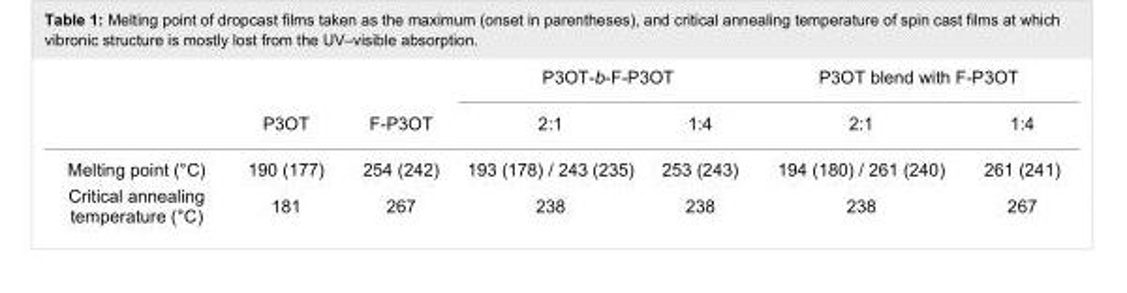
<table><thead><tr><td rowspan="2"></td><td rowspan="2">P3OT</td><td rowspan="2">F-P3OT</td><td colspan="2">P3OT-b-F-P3OT</td><td colspan="2">P3OT blend with F-P3OT</td></tr><tr><td>2:1</td><td>1:4</td><td>2:1</td><td>1:4</td></tr></thead><tbody><tr><td>Melting point (°C)</td><td>190 (177)</td><td>254 (242)</td><td>193 (178) / 243 (235)</td><td>253 (243)</td><td>194 (180) / 261 (240)</td><td>261 (241)</td></tr><tr><td>Critical annealing temperature (°C)</td><td>181</td><td>267</td><td>238</td><td>238</td><td>238</td><td>267</td></tr></tbody></table>